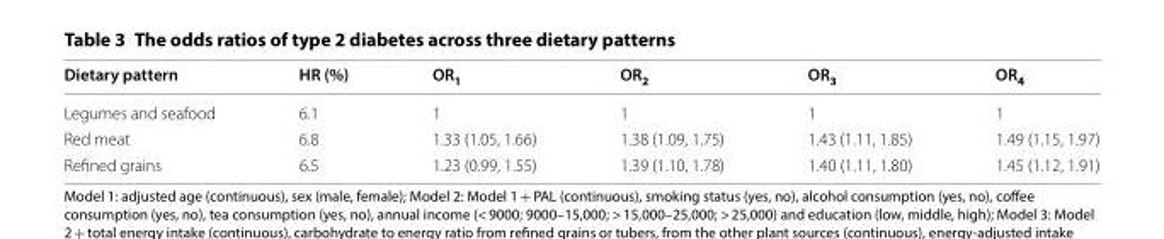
<table><thead><tr><td>Dietary pattern</td><td>HR (%)</td><td>OR<sub>1</sub></td><td>OR<sub>2</sub></td><td>OR<sub>3</sub></td><td>OR<sub>4</sub></td></tr></thead><tbody><tr><td>Legumes and seafood</td><td>6.1</td><td>1</td><td>1</td><td>1</td><td>1</td></tr><tr><td>Red meat</td><td>6.8</td><td>1.33 (1.05, 1.66)</td><td>1.38 (1.09, 1.75)</td><td>1.43 (1.11, 1.85)</td><td>1.49 (1.15, 1.97)</td></tr><tr><td>Refined grains</td><td>6.5</td><td>1.23 (0.99, 1.55)</td><td>1.39 (1.10, 1.78)</td><td>1.40 (1.11, 1.80)</td><td>1.45 (1.12, 1.91)</td></tr></tbody></table>